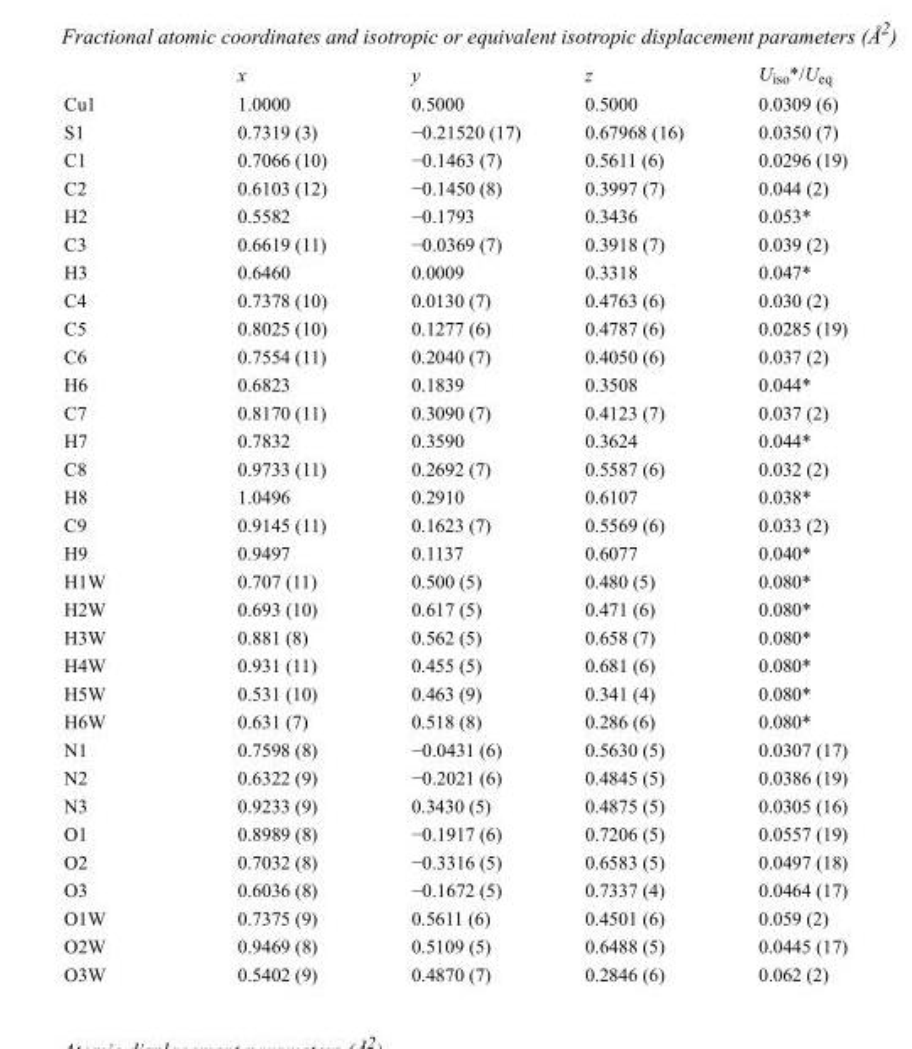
<table><thead><tr><td></td><td>x</td><td>y</td><td>z</td><td>U<sub>iso</sub>*/U<sub>eq</sub></td></tr></thead><tbody><tr><td>Cu1</td><td>1.0000</td><td>0.5000</td><td>0.5000</td><td>0.0309 (6)</td></tr><tr><td>S1</td><td>0.7319 (3)</td><td>−0.21520 (17)</td><td>0.67968 (16)</td><td>0.0350 (7)</td></tr><tr><td>C1</td><td>0.7066 (10)</td><td>−0.1463 (7)</td><td>0.5611 (6)</td><td>0.0296 (19)</td></tr><tr><td>C2</td><td>0.6103 (12)</td><td>−0.1450 (8)</td><td>0.3997 (7)</td><td>0.044 (2)</td></tr><tr><td>H2</td><td>0.5582</td><td>−0.1793</td><td>0.3436</td><td>0.053*</td></tr><tr><td>C3</td><td>0.6619 (11)</td><td>−0.0369 (7)</td><td>0.3918 (7)</td><td>0.039 (2)</td></tr><tr><td>H3</td><td>0.6460</td><td>0.0009</td><td>0.3318</td><td>0.047*</td></tr><tr><td>C4</td><td>0.7378 (10)</td><td>0.0130 (7)</td><td>0.4763 (6)</td><td>0.030 (2)</td></tr><tr><td>C5</td><td>0.8025 (10)</td><td>0.1277 (6)</td><td>0.4787 (6)</td><td>0.0285 (19)</td></tr><tr><td>C6</td><td>0.7554 (11)</td><td>0.2040 (7)</td><td>0.4050 (6)</td><td>0.037 (2)</td></tr><tr><td>H6</td><td>0.6823</td><td>0.1839</td><td>0.3508</td><td>0.044*</td></tr><tr><td>C7</td><td>0.8170 (11)</td><td>0.3090 (7)</td><td>0.4123 (7)</td><td>0.037 (2)</td></tr><tr><td>H7</td><td>0.7832</td><td>0.3590</td><td>0.3624</td><td>0.044*</td></tr><tr><td>C8</td><td>0.9733 (11)</td><td>0.2692 (7)</td><td>0.5587 (6)</td><td>0.032 (2)</td></tr><tr><td>H8</td><td>1.0496</td><td>0.2910</td><td>0.6107</td><td>0.038*</td></tr><tr><td>C9</td><td>0.9145 (11)</td><td>0.1623 (7)</td><td>0.5569 (6)</td><td>0.033 (2)</td></tr><tr><td>H9</td><td>0.9497</td><td>0.1137</td><td>0.6077</td><td>0.040*</td></tr><tr><td>H1W</td><td>0.707 (11)</td><td>0.500 (5)</td><td>0.480 (5)</td><td>0.080*</td></tr><tr><td>H2W</td><td>0.693 (10)</td><td>0.617 (5)</td><td>0.471 (6)</td><td>0.080*</td></tr><tr><td>H3W</td><td>0.881 (8)</td><td>0.562 (5)</td><td>0.658 (7)</td><td>0.080*</td></tr><tr><td>H4W</td><td>0.931 (11)</td><td>0.455 (5)</td><td>0.681 (6)</td><td>0.080*</td></tr><tr><td>H5W</td><td>0.531 (10)</td><td>0.463 (9)</td><td>0.341 (4)</td><td>0.080*</td></tr><tr><td>H6W</td><td>0.631 (7)</td><td>0.518 (8)</td><td>0.286 (6)</td><td>0.080*</td></tr><tr><td>N1</td><td>0.7598 (8)</td><td>−0.0431 (6)</td><td>0.5630 (5)</td><td>0.0307 (17)</td></tr><tr><td>N2</td><td>0.6322 (9)</td><td>−0.2021 (6)</td><td>0.4845 (5)</td><td>0.0386 (19)</td></tr><tr><td>N3</td><td>0.9233 (9)</td><td>0.3430 (5)</td><td>0.4875 (5)</td><td>0.0305 (16)</td></tr><tr><td>O1</td><td>0.8989 (8)</td><td>−0.1917 (6)</td><td>0.7206 (5)</td><td>0.0557 (19)</td></tr><tr><td>O2</td><td>0.7032 (8)</td><td>−0.3316 (5)</td><td>0.6583 (5)</td><td>0.0497 (18)</td></tr><tr><td>O3</td><td>0.6036 (8)</td><td>−0.1672 (5)</td><td>0.7337 (4)</td><td>0.0464 (17)</td></tr><tr><td>O1W</td><td>0.7375 (9)</td><td>0.5611 (6)</td><td>0.4501 (6)</td><td>0.059 (2)</td></tr><tr><td>O2W</td><td>0.9469 (8)</td><td>0.5109 (5)</td><td>0.6488 (5)</td><td>0.0445 (17)</td></tr><tr><td>O3W</td><td>0.5402 (9)</td><td>0.4870 (7)</td><td>0.2846 (6)</td><td>0.062 (2)</td></tr></tbody></table>